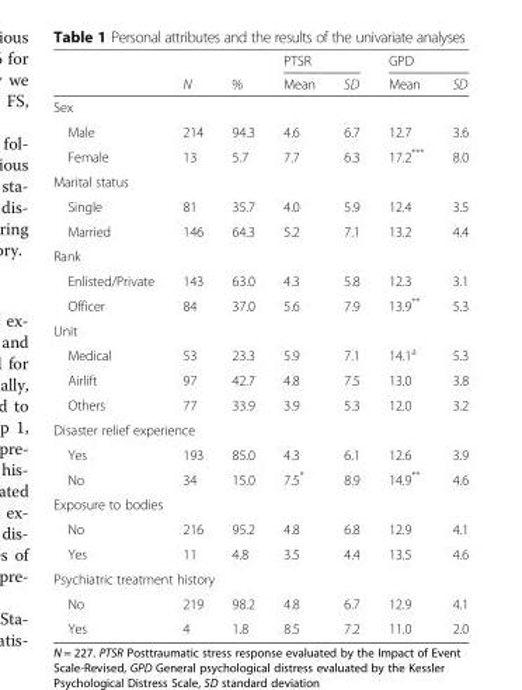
<table><thead><tr><td rowspan="2"></td><td rowspan="2">N</td><td rowspan="2">%</td><td colspan="2">PTSR</td><td colspan="2">GPD</td></tr><tr><td>Mean</td><td>SD</td><td>Mean</td><td>SD</td></tr></thead><tbody><tr><td colspan="7">Sex</td></tr><tr><td>Male</td><td>214</td><td>94.3</td><td>4.6</td><td>6.7</td><td>12.7</td><td>3.6</td></tr><tr><td>Female</td><td>13</td><td>5.7</td><td>7.7</td><td>6.3</td><td>17.2***</td><td>8.0</td></tr><tr><td colspan="7">Marital status</td></tr><tr><td>Single</td><td>81</td><td>35.7</td><td>4.0</td><td>5.9</td><td>12.4</td><td>3.5</td></tr><tr><td>Married</td><td>146</td><td>64.3</td><td>5.2</td><td>7.1</td><td>13.2</td><td>4.4</td></tr><tr><td colspan="7">Rank</td></tr><tr><td>Enlisted/Private</td><td>143</td><td>63.0</td><td>4.3</td><td>5.8</td><td>12.3</td><td>3.1</td></tr><tr><td>Officer</td><td>84</td><td>37.0</td><td>5.6</td><td>7.9</td><td>13.9**</td><td>5.3</td></tr><tr><td colspan="7">Unit</td></tr><tr><td>Medical</td><td>53</td><td>23.3</td><td>5.9</td><td>7.1</td><td>14.1<sup>a</sup></td><td>5.3</td></tr><tr><td>Airlift</td><td>97</td><td>42.7</td><td>4.8</td><td>7.5</td><td>13.0</td><td>3.8</td></tr><tr><td>Others</td><td>77</td><td>33.9</td><td>3.9</td><td>5.3</td><td>12.0</td><td>3.2</td></tr><tr><td colspan="7">Disaster relief experience</td></tr><tr><td>Yes</td><td>193</td><td>85.0</td><td>4.3</td><td>6.1</td><td>12.6</td><td>3.9</td></tr><tr><td>No</td><td>34</td><td>15.0</td><td>7.5*</td><td>8.9</td><td>14.9**</td><td>4.6</td></tr><tr><td colspan="7">Exposure to bodies</td></tr><tr><td>No</td><td>216</td><td>95.2</td><td>4.8</td><td>6.8</td><td>12.9</td><td>4.1</td></tr><tr><td>Yes</td><td>11</td><td>4.8</td><td>3.5</td><td>4.4</td><td>13.5</td><td>4.6</td></tr><tr><td colspan="7">Psychiatric treatment history</td></tr><tr><td>No</td><td>219</td><td>98.2</td><td>4.8</td><td>6.7</td><td>12.9</td><td>4.1</td></tr><tr><td>Yes</td><td>4</td><td>1.8</td><td>8.5</td><td>7.2</td><td>11.0</td><td>2.0</td></tr></tbody></table>